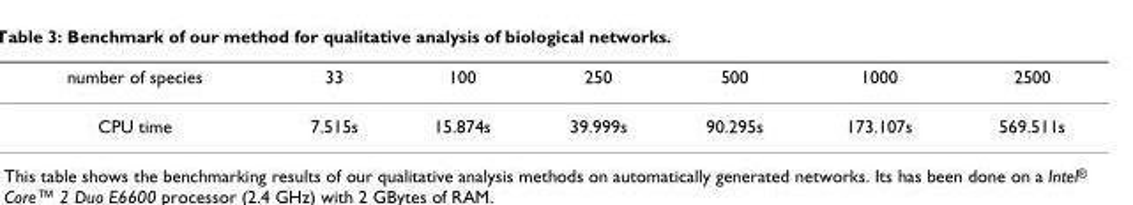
<table><thead><tr><td>number of species</td><td>33</td><td>100</td><td>250</td><td>500</td><td>1000</td><td>2500</td></tr></thead><tbody><tr><td>CPU time</td><td>7.515s</td><td>15.874s</td><td>39.999s</td><td>90.295s</td><td>173.107s</td><td>569.511s</td></tr></tbody></table>